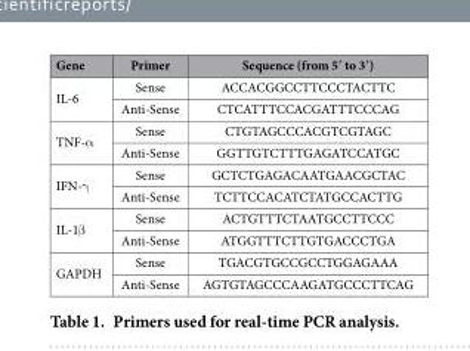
<table><thead><tr><td>Gene</td><td>Primer</td><td>Sequence (from 5′ to 3′)</td></tr></thead><tbody><tr><td rowspan="2">IL-6</td><td>Sense</td><td>ACCACGGCCTTCCCTACTTC</td></tr><tr><td>Anti-Sense</td><td>CTCATTTCCACGATTTCCCAG</td></tr><tr><td rowspan="2">TNF-α</td><td>Sense</td><td>CTGTAGCCCACGTCGTAGC</td></tr><tr><td>Anti-Sense</td><td>GGTTGTCTTTGAGATCCATGC</td></tr><tr><td rowspan="2">IFN-γ</td><td>Sense</td><td>GCTCTGAGACAATGAACGCTAC</td></tr><tr><td>Anti-Sense</td><td>TCTTCCACATCTATGCCACTTG</td></tr><tr><td rowspan="2">IL-1β</td><td>Sense</td><td>ACTGTTTCTAATGCCTTCCC</td></tr><tr><td>Anti-Sense</td><td>ATGGTTTCTTGTGACCCTGA</td></tr><tr><td rowspan="2">GAPDH</td><td>Sense</td><td>TGACGTGCCGCCTGGAGAAA</td></tr><tr><td>Anti-Sense</td><td>AGTGTAGCCCAAGATGCCCTTCAG</td></tr></tbody></table>